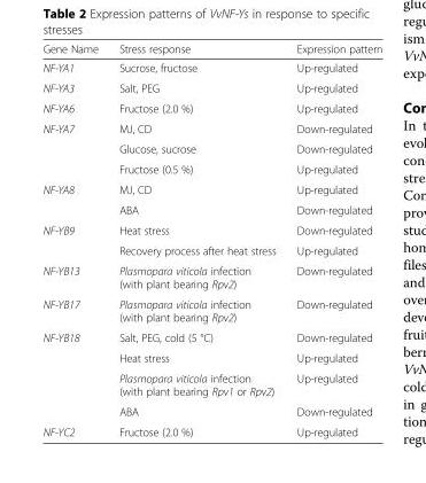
<table><thead><tr><td>Gene Name</td><td>Stress response</td><td>Expression pattern</td></tr></thead><tbody><tr><td>NF-YA1</td><td>Sucrose, fructose</td><td>Up-regulated</td></tr><tr><td>NF-YA3</td><td>Salt, PEG</td><td>Up-regulated</td></tr><tr><td>NF-YA6</td><td>Fructose (2.0 %)</td><td>Up-regulated</td></tr><tr><td rowspan="3">NF-YA7</td><td>MJ, CD</td><td>Down-regulated</td></tr><tr><td>Glucose, sucrose</td><td>Down-regulated</td></tr><tr><td>Fructose (0.5 %)</td><td>Up-regulated</td></tr><tr><td rowspan="2">NF-YA8</td><td>MJ, CD</td><td>Up-regulated</td></tr><tr><td>ABA</td><td>Down-regulated</td></tr><tr><td rowspan="2">NF-YB9</td><td>Heat stress</td><td>Down-regulated</td></tr><tr><td>Recovery process after heat stress</td><td>Up-regulated</td></tr><tr><td>NF-YB13</td><td>Plasmopara viticola infection (with plant bearing Rpv2)</td><td>Down-regulated</td></tr><tr><td>NF-YB17</td><td>Plasmopara viticola infection (with plant bearing Rpv2)</td><td>Down-regulated</td></tr><tr><td rowspan="4">NF-YB18</td><td>Salt, PEG, cold (5 °C)</td><td>Down-regulated</td></tr><tr><td>Heat stress</td><td>Up-regulated</td></tr><tr><td>Plasmopara viticola infection (with plant bearing Rpv1 or Rpv2)</td><td>Up-regulated</td></tr><tr><td>ABA</td><td>Down-regulated</td></tr><tr><td>NF-YC2</td><td>Fructose (2.0 %)</td><td>Up-regulated</td></tr></tbody></table>